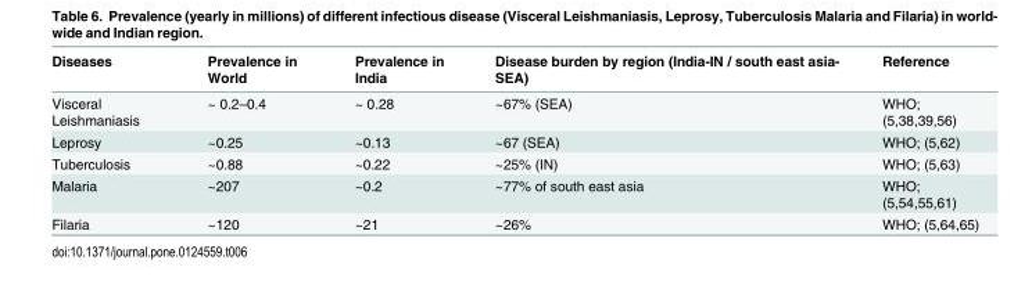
<table><thead><tr><td>Diseases</td><td>Prevalence in World</td><td>Prevalence in India</td><td>Disease burden by region (India-IN / south east asia- SEA)</td><td>Reference</td></tr></thead><tbody><tr><td>Visceral Leishmaniasis</td><td>~ 0.2–0.4</td><td>~ 0.28</td><td>~67% (SEA)</td><td>WHO; (5,38,39,56)</td></tr><tr><td>Leprosy</td><td>~0.25</td><td>~0.13</td><td>~67 (SEA)</td><td>WHO; (5,62)</td></tr><tr><td>Tuberculosis</td><td>~0.88</td><td>~0.22</td><td>~25% (IN)</td><td>WHO; (5,63)</td></tr><tr><td>Malaria</td><td>~207</td><td>~0.2</td><td>~77% of south east asia</td><td>WHO; (5,54,55,61)</td></tr><tr><td>Filaria</td><td>~120</td><td>~21</td><td>~26%</td><td>WHO; (5,64,65)</td></tr></tbody></table>